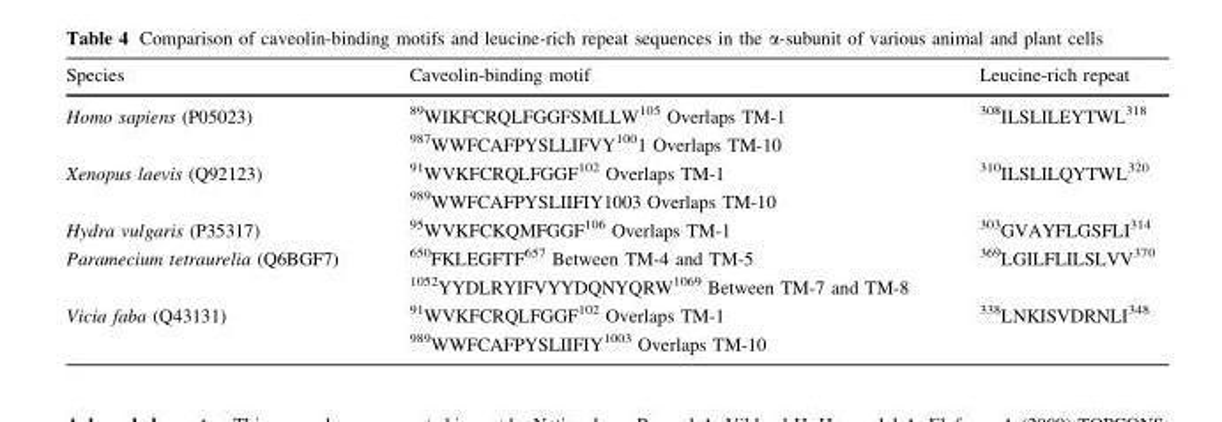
<table><thead><tr><td>Species</td><td>Caveolin-binding motif</td><td>Leucine-rich repeat</td></tr></thead><tbody><tr><td rowspan="2">Homo sapiens (P05023)</td><td><sup>89</sup>WIKFCRQLFGGFSMLLW<sup>105</sup> Overlaps TM-1</td><td><sup>308</sup>ILSLILEYTWL<sup>318</sup></td></tr><tr><td><sup>987</sup>WWFCAFPYSLLIFVY<sup>100</sup>1 Overlaps TM-10</td><td></td></tr><tr><td rowspan="2">Xenopus laevis (Q92123)</td><td><sup>91</sup>WVKFCRQLFGGF<sup>102</sup> Overlaps TM-1</td><td><sup>310</sup>ILSLILQYTWL<sup>320</sup></td></tr><tr><td><sup>989</sup>WWFCAFPYSLIIFIY1003 Overlaps TM-10</td><td></td></tr><tr><td>Hydra vulgaris (P35317)</td><td><sup>95</sup>WVKFCKQMFGGF<sup>106</sup> Overlaps TM-1</td><td><sup>303</sup>GVAYFLGSFLI<sup>314</sup></td></tr><tr><td rowspan="2">Paramecium tetraurelia (Q6BGF7)</td><td><sup>650</sup>FKLEGFTF<sup>657</sup> Between TM-4 and TM-5</td><td><sup>369</sup>LGILFLILSLVV<sup>370</sup></td></tr><tr><td><sup>1052</sup>YYDLRYIFVYYDQNYQRW<sup>1069</sup> Between TM-7 and TM-8</td><td></td></tr><tr><td rowspan="2">Vicia faba (Q43131)</td><td><sup>91</sup>WVKFCRQLFGGF<sup>102</sup> Overlaps TM-1</td><td><sup>338</sup>LNKISVDRNLI<sup>348</sup></td></tr><tr><td><sup>989</sup>WWFCAFPYSLIIFIY<sup>1003</sup> Overlaps TM-10</td><td></td></tr></tbody></table>